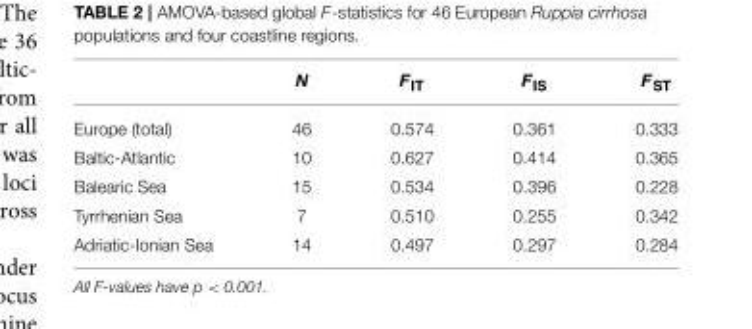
<table><thead><tr><td></td><td>N</td><td>F<sub>IT</sub></td><td>F<sub>IS</sub></td><td>F<sub>ST</sub></td></tr></thead><tbody><tr><td>Europe (total)</td><td>46</td><td>0.574</td><td>0.361</td><td>0.333</td></tr><tr><td>Baltic-Atlantic</td><td>10</td><td>0.627</td><td>0.414</td><td>0.365</td></tr><tr><td>Balearic Sea</td><td>15</td><td>0.534</td><td>0.396</td><td>0.228</td></tr><tr><td>Tyrrhenian Sea</td><td>7</td><td>0.510</td><td>0.255</td><td>0.342</td></tr><tr><td>Adriatic-Ionian Sea</td><td>14</td><td>0.497</td><td>0.297</td><td>0.284</td></tr></tbody></table>